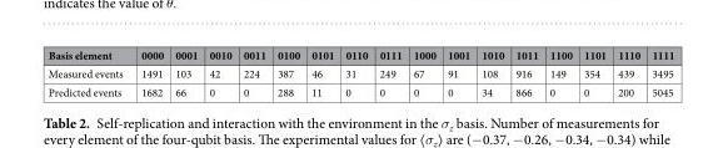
<table><thead><tr><td>Basis element</td><td>0000</td><td>0001</td><td>0010</td><td>0011</td><td>0100</td><td>0101</td><td>0110</td><td>0111</td><td>1000</td><td>1001</td><td>1010</td><td>1011</td><td>1100</td><td>1101</td><td>1110</td><td>1111</td></tr></thead><tbody><tr><td>Measured events</td><td>1491</td><td>103</td><td>42</td><td>224</td><td>387</td><td>46</td><td>31</td><td>249</td><td>67</td><td>91</td><td>108</td><td>916</td><td>149</td><td>354</td><td>439</td><td>3495</td></tr><tr><td>Predicted events</td><td>1682</td><td>66</td><td>0</td><td>0</td><td>288</td><td>11</td><td>0</td><td>0</td><td>0</td><td>0</td><td>34</td><td>866</td><td>0</td><td>0</td><td>200</td><td>5045</td></tr></tbody></table>